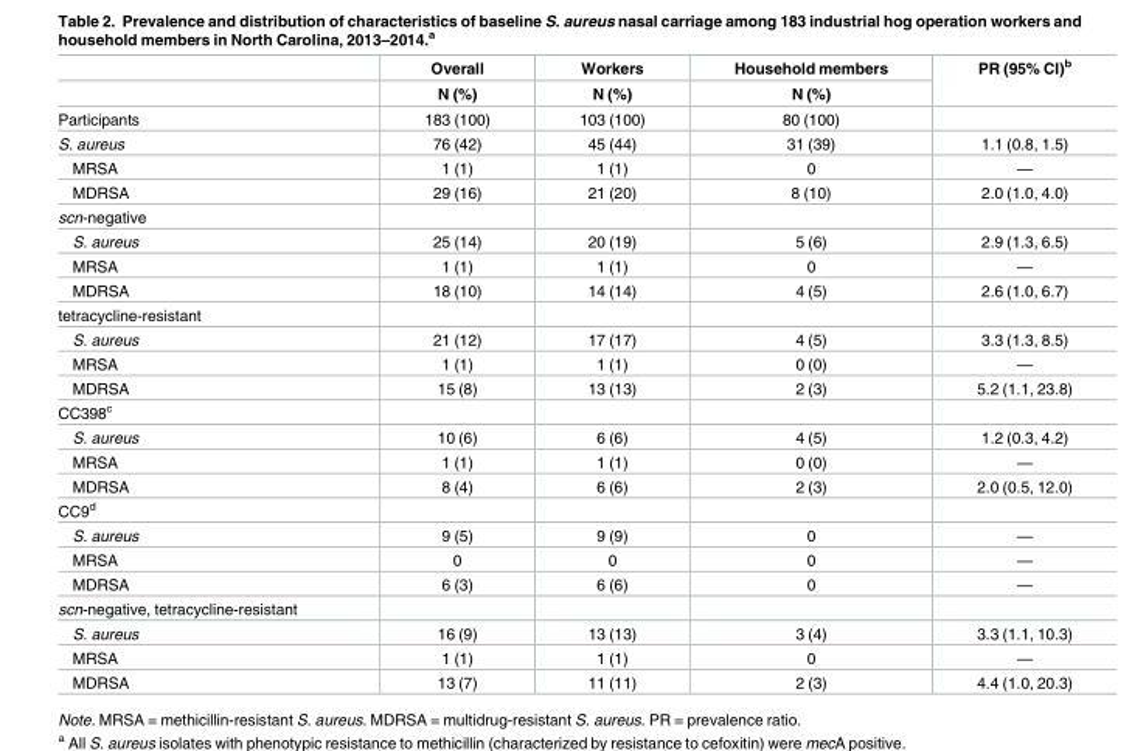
<table><thead><tr><td rowspan="2"></td><td rowspan="2">Overall N (%)</td><td rowspan="2">Workers N (%)</td><td rowspan="2">Household members N (%)</td><td rowspan="2">PR (95% CI)<sup>b</sup></td></tr><tr></tr></thead><tbody><tr><td>Participants</td><td>183 (100)</td><td>103 (100)</td><td>80 (100)</td><td></td></tr><tr><td>S. aureus</td><td>76 (42)</td><td>45 (44)</td><td>31 (39)</td><td>1.1 (0.8, 1.5)</td></tr><tr><td>MRSA</td><td>1 (1)</td><td>1 (1)</td><td>0</td><td>—</td></tr><tr><td>MDRSA</td><td>29 (16)</td><td>21 (20)</td><td>8 (10)</td><td>2.0 (1.0, 4.0)</td></tr><tr><td colspan="5">scn-negative</td></tr><tr><td>S. aureus</td><td>25 (14)</td><td>20 (19)</td><td>5 (6)</td><td>2.9 (1.3, 6.5)</td></tr><tr><td>MRSA</td><td>1 (1)</td><td>1 (1)</td><td>0</td><td>—</td></tr><tr><td>MDRSA</td><td>18 (10)</td><td>14 (14)</td><td>4 (5)</td><td>2.6 (1.0, 6.7)</td></tr><tr><td colspan="5">tetracycline-resistant</td></tr><tr><td>S. aureus</td><td>21 (12)</td><td>17 (17)</td><td>4 (5)</td><td>3.3 (1.3, 8.5)</td></tr><tr><td>MRSA</td><td>1 (1)</td><td>1 (1)</td><td>0 (0)</td><td>—</td></tr><tr><td>MDRSA</td><td>15 (8)</td><td>13 (13)</td><td>2 (3)</td><td>5.2 (1.1, 23.8)</td></tr><tr><td colspan="5">CC398<sup>c</sup></td></tr><tr><td>S. aureus</td><td>10 (6)</td><td>6 (6)</td><td>4 (5)</td><td>1.2 (0.3, 4.2)</td></tr><tr><td>MRSA</td><td>1 (1)</td><td>1 (1)</td><td>0 (0)</td><td>—</td></tr><tr><td>MDRSA</td><td>8 (4)</td><td>6 (6)</td><td>2 (3)</td><td>2.0 (0.5, 12.0)</td></tr><tr><td colspan="5">CC9<sup>d</sup></td></tr><tr><td>S. aureus</td><td>9 (5)</td><td>9 (9)</td><td>0</td><td>—</td></tr><tr><td>MRSA</td><td>0</td><td>0</td><td>0</td><td>—</td></tr><tr><td>MDRSA</td><td>6 (3)</td><td>6 (6)</td><td>0</td><td>—</td></tr><tr><td colspan="5">scn-negative, tetracycline-resistant</td></tr><tr><td>S. aureus</td><td>16 (9)</td><td>13 (13)</td><td>3 (4)</td><td>3.3 (1.1, 10.3)</td></tr><tr><td>MRSA</td><td>1 (1)</td><td>1 (1)</td><td>0</td><td>—</td></tr><tr><td>MDRSA</td><td>13 (7)</td><td>11 (11)</td><td>2 (3)</td><td>4.4 (1.0, 20.3)</td></tr></tbody></table>